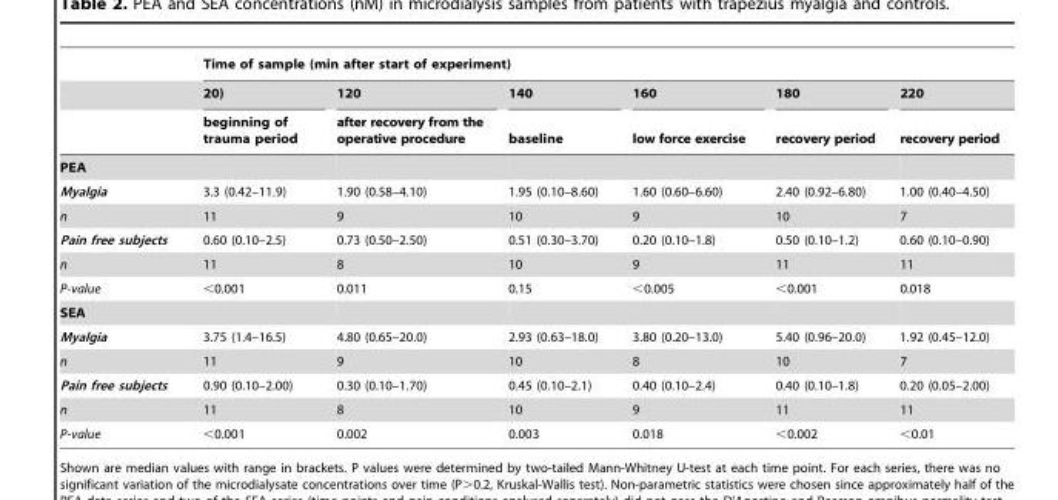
<table><thead><tr><td rowspan="3"></td><td colspan="6">Time of sample (min after start of experiment)</td></tr><tr><td rowspan="2">20) beginning of trauma period</td><td rowspan="2">120 after recovery from the operative procedure</td><td rowspan="2">140 baseline</td><td rowspan="2">160 low force exercise</td><td rowspan="2">180 recovery period</td><td rowspan="2">220 recovery period</td></tr><tr></tr></thead><tbody><tr><td colspan="7">PEA</td></tr><tr><td>Myalgia</td><td>3.3 (0.42–11.9)</td><td>1.90 (0.58–4.10)</td><td>1.95 (0.10–8.60)</td><td>1.60 (0.60–6.60)</td><td>2.40 (0.92–6.80)</td><td>1.00 (0.40–4.50)</td></tr><tr><td>n</td><td>11</td><td>9</td><td>10</td><td>9</td><td>10</td><td>7</td></tr><tr><td>Pain free subjects</td><td>0.60 (0.10–2.5)</td><td>0.73 (0.50–2.50)</td><td>0.51 (0.30–3.70)</td><td>0.20 (0.10–1.8)</td><td>0.50 (0.10–1.2)</td><td>0.60 (0.10–0.90)</td></tr><tr><td>n</td><td>11</td><td>8</td><td>10</td><td>9</td><td>11</td><td>11</td></tr><tr><td>P-value</td><td>&lt;0.001</td><td>0.011</td><td>0.15</td><td>&lt;0.005</td><td>&lt;0.001</td><td>0.018</td></tr><tr><td colspan="7">SEA</td></tr><tr><td>Myalgia</td><td>3.75 (1.4–16.5)</td><td>4.80 (0.65–20.0)</td><td>2.93 (0.63–18.0)</td><td>3.80 (0.20–13.0)</td><td>5.40 (0.96–20.0)</td><td>1.92 (0.45–12.0)</td></tr><tr><td>n</td><td>11</td><td>9</td><td>10</td><td>8</td><td>10</td><td>7</td></tr><tr><td>Pain free subjects</td><td>0.90 (0.10–2.00)</td><td>0.30 (0.10–1.70)</td><td>0.45 (0.10–2.1)</td><td>0.40 (0.10–2.4)</td><td>0.40 (0.10–1.8)</td><td>0.20 (0.05–2.00)</td></tr><tr><td>n</td><td>11</td><td>8</td><td>10</td><td>9</td><td>11</td><td>11</td></tr><tr><td>P-value</td><td>&lt;0.001</td><td>0.002</td><td>0.003</td><td>0.018</td><td>&lt;0.002</td><td>&lt;0.01</td></tr></tbody></table>